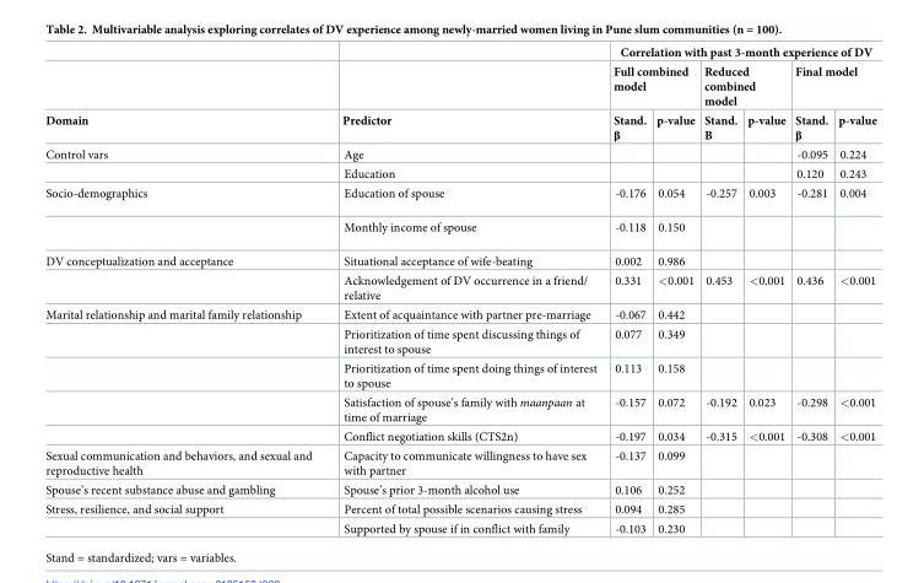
<table><thead><tr><td rowspan="3">Domain</td><td rowspan="3">Predictor</td><td colspan="6">Correlation with past 3-month experience of DV</td></tr><tr><td colspan="2">Full combined model</td><td colspan="2">Reduced combined model</td><td colspan="2">Final model</td></tr><tr><td>Stand. β</td><td>p-value</td><td>Stand. Β</td><td>p-value</td><td>Stand. β</td><td>p-value</td></tr></thead><tbody><tr><td rowspan="2">Control vars</td><td>Age</td><td></td><td></td><td></td><td></td><td>-0.095</td><td>0.224</td></tr><tr><td>Education</td><td></td><td></td><td></td><td></td><td>0.120</td><td>0.243</td></tr><tr><td rowspan="2">Socio-demographics</td><td>Education of spouse</td><td>-0.176</td><td>0.054</td><td>-0.257</td><td>0.003</td><td>-0.281</td><td>0.004</td></tr><tr><td>Monthly income of spouse</td><td>-0.118</td><td>0.150</td><td></td><td></td><td></td><td></td></tr><tr><td rowspan="2">DV conceptualization and acceptance</td><td>Situational acceptance of wife-beating</td><td>0.002</td><td>0.986</td><td></td><td></td><td></td><td></td></tr><tr><td>Acknowledgement of DV occurrence in a friend/ relative</td><td>0.331</td><td>&lt;0.001</td><td>0.453</td><td>&lt;0.001</td><td>0.436</td><td>&lt;0.001</td></tr><tr><td rowspan="5">Marital relationship and marital family relationship</td><td>Extent of acquaintance with partner pre-marriage</td><td>-0.067</td><td>0.442</td><td></td><td></td><td></td><td></td></tr><tr><td>Prioritization of time spent discussing things of interest to spouse</td><td>0.077</td><td>0.349</td><td></td><td></td><td></td><td></td></tr><tr><td>Prioritization of time spent doing things of interest to spouse</td><td>0.113</td><td>0.158</td><td></td><td></td><td></td><td></td></tr><tr><td>Satisfaction of spouse’s family with maanpaan at time of marriage</td><td>-0.157</td><td>0.072</td><td>-0.192</td><td>0.023</td><td>-0.298</td><td>&lt;0.001</td></tr><tr><td>Conflict negotiation skills (CTS2n)</td><td>-0.197</td><td>0.034</td><td>-0.315</td><td>&lt;0.001</td><td>-0.308</td><td>&lt;0.001</td></tr><tr><td>Sexual communication and behaviors, and sexual and reproductive health</td><td>Capacity to communicate willingness to have sex with partner</td><td>-0.137</td><td>0.099</td><td></td><td></td><td></td><td></td></tr><tr><td>Spouse’s recent substance abuse and gambling</td><td>Spouse’s prior 3-month alcohol use</td><td>0.106</td><td>0.252</td><td></td><td></td><td></td><td></td></tr><tr><td rowspan="2">Stress, resilience, and social support</td><td>Percent of total possible scenarios causing stress</td><td>0.094</td><td>0.285</td><td></td><td></td><td></td><td></td></tr><tr><td>Supported by spouse if in conflict with family</td><td>-0.103</td><td>0.230</td><td></td><td></td><td></td><td></td></tr></tbody></table>